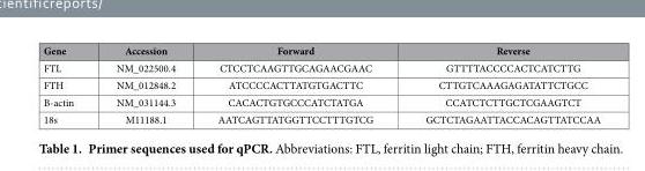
<table><thead><tr><td>Gene</td><td>Accession</td><td>Forward</td><td>Reverse</td></tr></thead><tbody><tr><td>FTL</td><td>NM_022500.4</td><td>CTCCTCAAGTTGCAGAACGAAC</td><td>GTTTTACCCCACTCATCTTG</td></tr><tr><td>FTH</td><td>NM_012848.2</td><td>ATCCCCACTTATGTGACTTC</td><td>CTTGTCAAAGAGATATTCTGCC</td></tr><tr><td>B-actin</td><td>NM_031144.3</td><td>CACACTGTGCCCATCTATGA</td><td>CCATCTCTTGCTCGAAGTCT</td></tr><tr><td>18s</td><td>M11188.1</td><td>AATCAGTTATGGTTCCTTTGTCG</td><td>GCTCTAGAATTACCACAGTTATCCAA</td></tr></tbody></table>